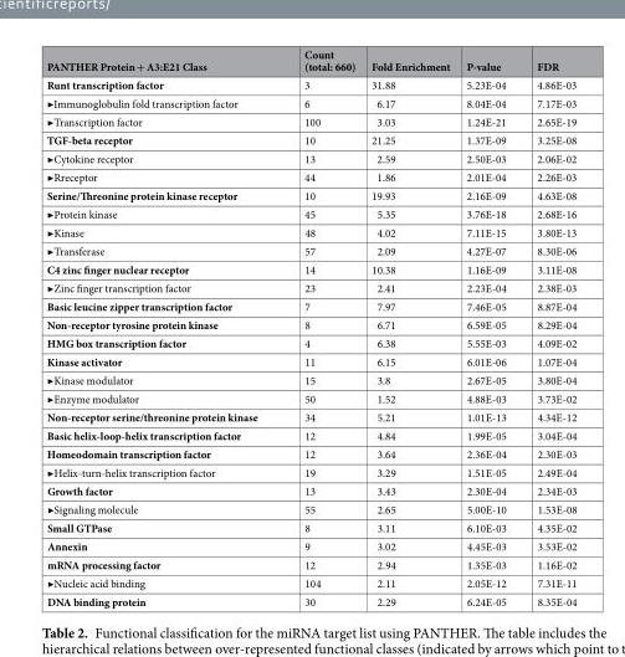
<table><thead><tr><td>PANTHER Protein + A3:E21 Class</td><td>Count (total: 660)</td><td>Fold Enrichment</td><td>P-value</td><td>FDR</td></tr></thead><tbody><tr><td>Runt transcription factor</td><td>3</td><td>31.88</td><td>5.23E-04</td><td>4.86E-03</td></tr><tr><td>▶Immunoglobulin fold transcription factor</td><td>6</td><td>6.17</td><td>8.04E-04</td><td>7.17E-03</td></tr><tr><td>▶Transcription factor</td><td>100</td><td>3.03</td><td>1.24E-21</td><td>2.65E-19</td></tr><tr><td>TGF-beta receptor</td><td>10</td><td>21.25</td><td>1.37E-09</td><td>3.25E-08</td></tr><tr><td>▶Cytokine receptor</td><td>13</td><td>2.59</td><td>2.50E-03</td><td>2.06E-02</td></tr><tr><td>▶Rreceptor</td><td>44</td><td>1.86</td><td>2.01E-04</td><td>2.26E-03</td></tr><tr><td>Serine/Threonine protein kinase receptor</td><td>10</td><td>19.93</td><td>2.16E-09</td><td>4.63E-08</td></tr><tr><td>▶Protein kinase</td><td>45</td><td>5.35</td><td>3.76E-18</td><td>2.68E-16</td></tr><tr><td>▶Kinase</td><td>48</td><td>4.02</td><td>7.11E-15</td><td>3.80E-13</td></tr><tr><td>▶Transferase</td><td>57</td><td>2.09</td><td>4.27E-07</td><td>8.30E-06</td></tr><tr><td>C4 zinc finger nuclear receptor</td><td>14</td><td>10.38</td><td>1.16E-09</td><td>3.11E-08</td></tr><tr><td>▶Zinc finger transcription factor</td><td>23</td><td>2.41</td><td>2.23E-04</td><td>2.38E-03</td></tr><tr><td>Basic leucine zipper transcription factor</td><td>7</td><td>7.97</td><td>7.46E-05</td><td>8.87E-04</td></tr><tr><td>Non-receptor tyrosine protein kinase</td><td>8</td><td>6.71</td><td>6.59E-05</td><td>8.29E-04</td></tr><tr><td>HMG box transcription factor</td><td>4</td><td>6.38</td><td>5.55E-03</td><td>4.09E-02</td></tr><tr><td>Kinase activator</td><td>11</td><td>6.15</td><td>6.01E-06</td><td>1.07E-04</td></tr><tr><td>▶Kinase modulator</td><td>15</td><td>3.8</td><td>2.67E-05</td><td>3.80E-04</td></tr><tr><td>▶Enzyme modulator</td><td>50</td><td>1.52</td><td>4.88E-03</td><td>3.73E-02</td></tr><tr><td>Non-receptor serine/threonine protein kinase</td><td>34</td><td>5.21</td><td>1.01E-13</td><td>4.34E-12</td></tr><tr><td>Basic helix-loop-helix transcription factor</td><td>12</td><td>4.84</td><td>1.99E-05</td><td>3.04E-04</td></tr><tr><td>Homeodomain transcription factor</td><td>12</td><td>3.64</td><td>2.36E-04</td><td>2.30E-03</td></tr><tr><td>▶Helix-turn-helix transcription factor</td><td>19</td><td>3.29</td><td>1.51E-05</td><td>2.49E-04</td></tr><tr><td>Growth factor</td><td>13</td><td>3.43</td><td>2.30E-04</td><td>2.34E-03</td></tr><tr><td>▶Signaling molecule</td><td>55</td><td>2.65</td><td>5.00E-10</td><td>1.53E-08</td></tr><tr><td>Small GTPase</td><td>8</td><td>3.11</td><td>6.10E-03</td><td>4.35E-02</td></tr><tr><td>Annexin</td><td>9</td><td>3.02</td><td>4.45E-03</td><td>3.53E-02</td></tr><tr><td>mRNA processing factor</td><td>12</td><td>2.94</td><td>1.35E-03</td><td>1.16E-02</td></tr><tr><td>▶Nucleic acid binding</td><td>104</td><td>2.11</td><td>2.05E-12</td><td>7.31E-11</td></tr><tr><td>DNA binding protein</td><td>30</td><td>2.29</td><td>6.24E-05</td><td>8.35E-04</td></tr></tbody></table>